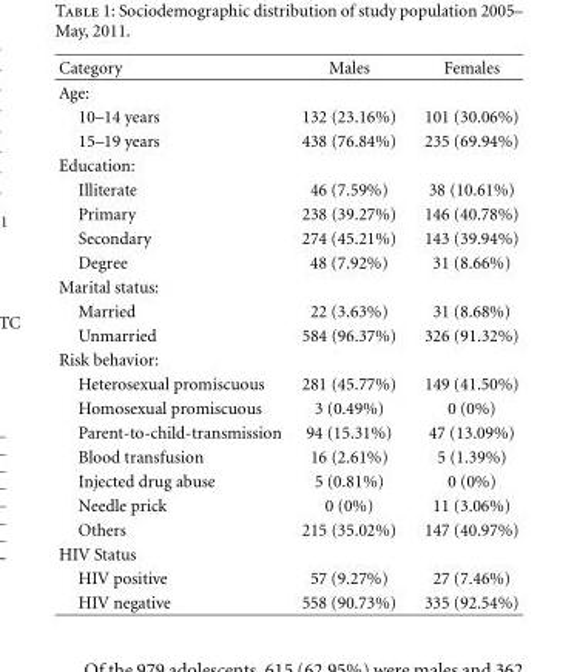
<table><thead><tr><td>Category</td><td>Males</td><td>Females</td></tr></thead><tbody><tr><td colspan="3">Age:</td></tr><tr><td>10–14 years</td><td>132 (23.16%)</td><td>101 (30.06%)</td></tr><tr><td>15–19 years</td><td>438 (76.84%)</td><td>235 (69.94%)</td></tr><tr><td colspan="3">Education:</td></tr><tr><td>Illiterate</td><td>46 (7.59%)</td><td>38 (10.61%)</td></tr><tr><td>Primary</td><td>238 (39.27%)</td><td>146 (40.78%)</td></tr><tr><td>Secondary</td><td>274 (45.21%)</td><td>143 (39.94%)</td></tr><tr><td>Degree</td><td>48 (7.92%)</td><td>31 (8.66%)</td></tr><tr><td colspan="3">Marital status:</td></tr><tr><td>Married</td><td>22 (3.63%)</td><td>31 (8.68%)</td></tr><tr><td>Unmarried</td><td>584 (96.37%)</td><td>326 (91.32%)</td></tr><tr><td colspan="3">Risk behavior:</td></tr><tr><td>Heterosexual promiscuous</td><td>281 (45.77%)</td><td>149 (41.50%)</td></tr><tr><td>Homosexual promiscuous</td><td>3 (0.49%)</td><td>0 (0%)</td></tr><tr><td>Parent-to-child-transmission</td><td>94 (15.31%)</td><td>47 (13.09%)</td></tr><tr><td>Blood transfusion</td><td>16 (2.61%)</td><td>5 (1.39%)</td></tr><tr><td>Injected drug abuse</td><td>5 (0.81%)</td><td>0 (0%)</td></tr><tr><td>Needle prick</td><td>0 (0%)</td><td>11 (3.06%)</td></tr><tr><td>Others</td><td>215 (35.02%)</td><td>147 (40.97%)</td></tr><tr><td colspan="3">HIV Status</td></tr><tr><td>HIV positive</td><td>57 (9.27%)</td><td>27 (7.46%)</td></tr><tr><td>HIV negative</td><td>558 (90.73%)</td><td>335 (92.54%)</td></tr></tbody></table>